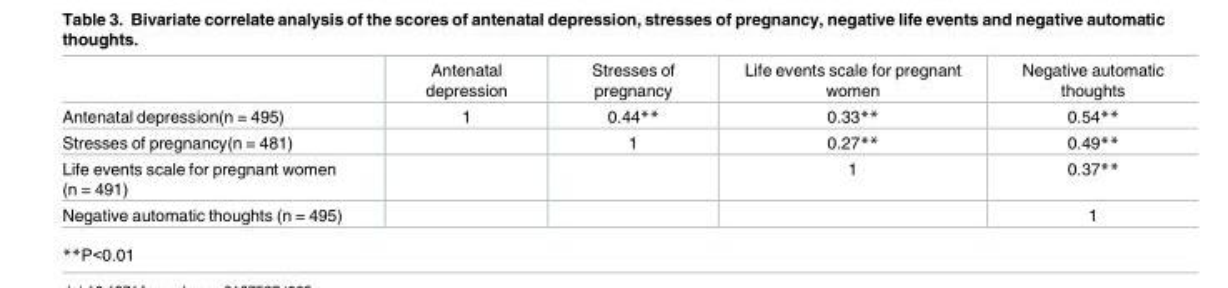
<table><thead><tr><td></td><td>Antenatal depression</td><td>Stresses of pregnancy</td><td>Life events scale for pregnant women</td><td>Negative automatic thoughts</td></tr></thead><tbody><tr><td>Antenatal depression(n = 495)</td><td>1</td><td>0.44**</td><td>0.33**</td><td>0.54**</td></tr><tr><td>Stresses of pregnancy(n = 481)</td><td></td><td>1</td><td>0.27**</td><td>0.49**</td></tr><tr><td>Life events scale for pregnant women (n = 491)</td><td></td><td></td><td>1</td><td>0.37**</td></tr><tr><td>Negative automatic thoughts (n = 495)</td><td></td><td></td><td></td><td>1</td></tr></tbody></table>